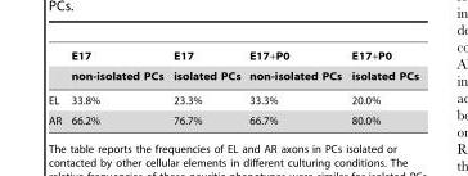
<table><thead><tr><td rowspan="2"></td><td rowspan="2">E17 non-isolated PCs</td><td rowspan="2">E17 isolated PCs</td><td rowspan="2">E17+P0 non-isolated PCs</td><td rowspan="2">E17+P0 isolated PCs</td></tr><tr></tr></thead><tbody><tr><td>EL</td><td>33.8%</td><td>23.3%</td><td>33.3%</td><td>20.0%</td></tr><tr><td>AR</td><td>66.2%</td><td>76.7%</td><td>66.7%</td><td>80.0%</td></tr></tbody></table>